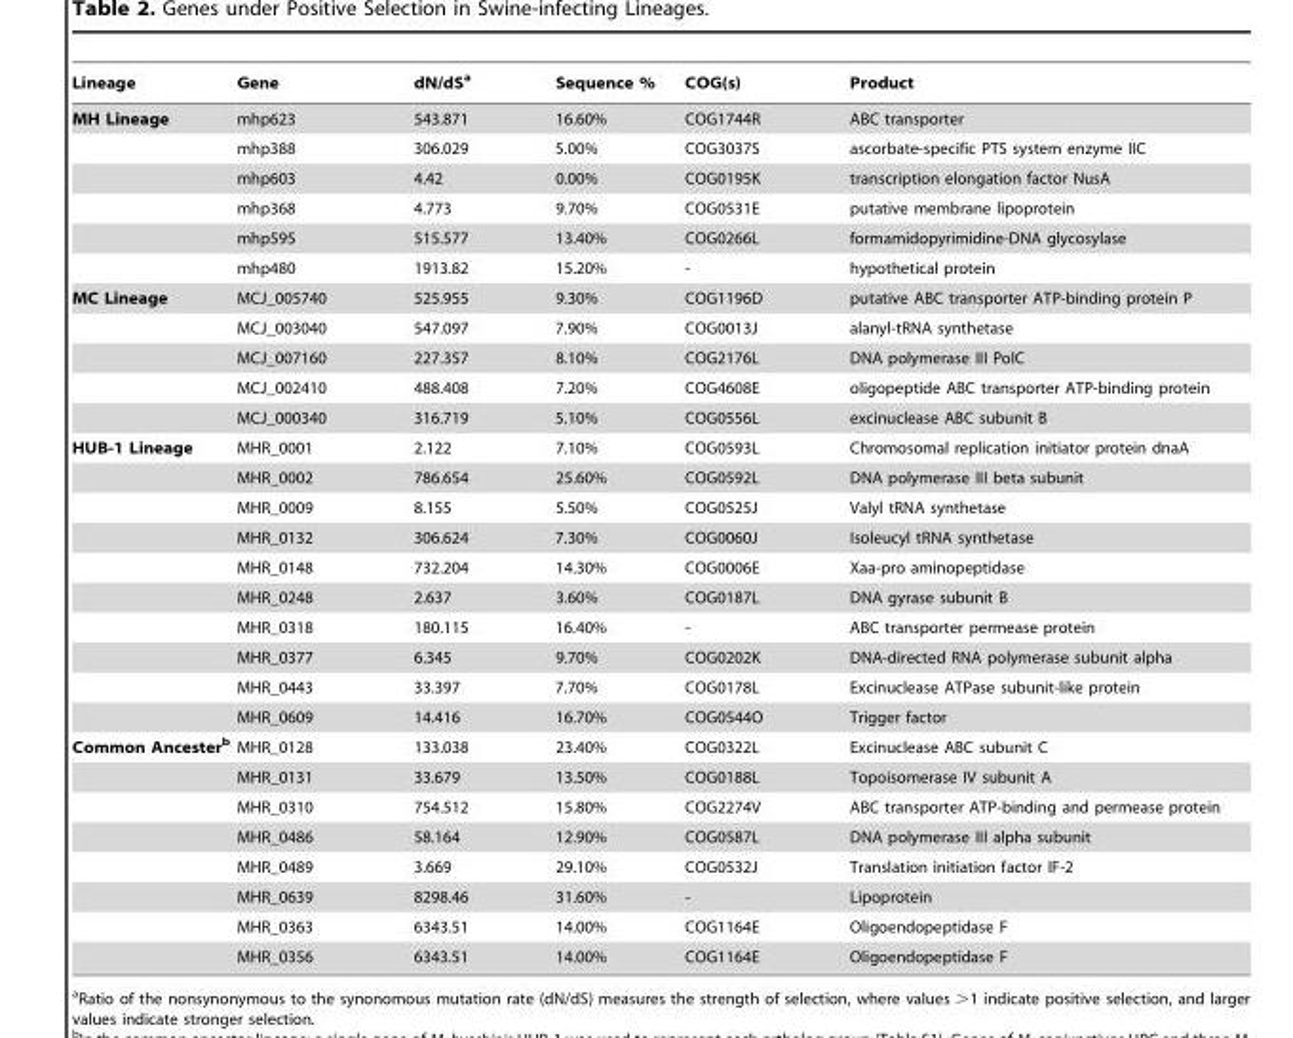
<table><thead><tr><td>Lineage</td><td>Gene</td><td>dN/dS<sup>a</sup></td><td>Sequence %</td><td>COG(s)</td><td>Product</td></tr></thead><tbody><tr><td rowspan="6">MH Lineage</td><td>mhp623</td><td>543.871</td><td>16.60%</td><td>COG1744R</td><td>ABC transporter</td></tr><tr><td>mhp388</td><td>306.029</td><td>5.00%</td><td>COG3037S</td><td>ascorbate-specific PTS system enzyme IIC</td></tr><tr><td>mhp603</td><td>4.42</td><td>0.00%</td><td>COG0195K</td><td>transcription elongation factor NusA</td></tr><tr><td>mhp368</td><td>4.773</td><td>9.70%</td><td>COG0531E</td><td>putative membrane lipoprotein</td></tr><tr><td>mhp595</td><td>515.577</td><td>13.40%</td><td>COG0266L</td><td>formamidopyrimidine-DNA glycosylase</td></tr><tr><td>mhp480</td><td>1913.82</td><td>15.20%</td><td>-</td><td>hypothetical protein</td></tr><tr><td rowspan="5">MC Lineage</td><td>MCJ_005740</td><td>525.955</td><td>9.30%</td><td>COG1196D</td><td>putative ABC transporter ATP-binding protein P</td></tr><tr><td>MCJ_003040</td><td>547.097</td><td>7.90%</td><td>COG0013J</td><td>alanyl-tRNA synthetase</td></tr><tr><td>MCJ_007160</td><td>227.357</td><td>8.10%</td><td>COG2176L</td><td>DNA polymerase III PolC</td></tr><tr><td>MCJ_002410</td><td>488.408</td><td>7.20%</td><td>COG4608E</td><td>oligopeptide ABC transporter ATP-binding protein</td></tr><tr><td>MCJ_000340</td><td>316.719</td><td>5.10%</td><td>COG0556L</td><td>excinuclease ABC subunit B</td></tr><tr><td rowspan="10">HUB-1 Lineage</td><td>MHR_0001</td><td>2.122</td><td>7.10%</td><td>COG0593L</td><td>Chromosomal replication initiator protein dnaA</td></tr><tr><td>MHR_0002</td><td>786.654</td><td>25.60%</td><td>COG0592L</td><td>DNA polymerase III beta subunit</td></tr><tr><td>MHR_0009</td><td>8.155</td><td>5.50%</td><td>COG0525J</td><td>Valyl tRNA synthetase</td></tr><tr><td>MHR_0132</td><td>306.624</td><td>7.30%</td><td>COG0060J</td><td>Isoleucyl tRNA synthetase</td></tr><tr><td>MHR_0148</td><td>732.204</td><td>14.30%</td><td>COG0006E</td><td>Xaa-pro aminopeptidase</td></tr><tr><td>MHR_0248</td><td>2.637</td><td>3.60%</td><td>COG0187L</td><td>DNA gyrase subunit B</td></tr><tr><td>MHR_0318</td><td>180.115</td><td>16.40%</td><td>-</td><td>ABC transporter permease protein</td></tr><tr><td>MHR_0377</td><td>6.345</td><td>9.70%</td><td>COG0202K</td><td>DNA-directed RNA polymerase subunit alpha</td></tr><tr><td>MHR_0443</td><td>33.397</td><td>7.70%</td><td>COG0178L</td><td>Excinuclease ATPase subunit-like protein</td></tr><tr><td>MHR_0609</td><td>14.416</td><td>16.70%</td><td>COG0544O</td><td>Trigger factor</td></tr><tr><td rowspan="8">Common Ancesterb</td><td>MHR_0128</td><td>133.038</td><td>23.40%</td><td>COG0322L</td><td>Excinuclease ABC subunit C</td></tr><tr><td>MHR_0131</td><td>33.679</td><td>13.50%</td><td>COG0188L</td><td>Topoisomerase IV subunit A</td></tr><tr><td>MHR_0310</td><td>754.512</td><td>15.80%</td><td>COG2274V</td><td>ABC transporter ATP-binding and permease protein</td></tr><tr><td>MHR_0486</td><td>58.164</td><td>12.90%</td><td>COG0587L</td><td>DNA polymerase III alpha subunit</td></tr><tr><td>MHR_0489</td><td>3.669</td><td>29.10%</td><td>COG0532J</td><td>Translation initiation factor IF-2</td></tr><tr><td>MHR_0639</td><td>8298.46</td><td>31.60%</td><td>-</td><td>Lipoprotein</td></tr><tr><td>MHR_0363</td><td>6343.51</td><td>14.00%</td><td>COG1164E</td><td>Oligoendopeptidase F</td></tr><tr><td>MHR_0356</td><td>6343.51</td><td>14.00%</td><td>COG1164E</td><td>Oligoendopeptidase F</td></tr></tbody></table>